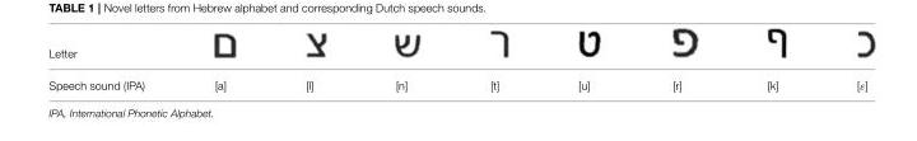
<table><thead><tr><td>Letter</td><td></td><td></td><td></td><td></td><td></td><td></td><td></td><td></td></tr></thead><tbody><tr><td>Speech sound (IPA)</td><td>[a]</td><td>[l]</td><td>[n]</td><td>[t]</td><td>[u]</td><td>[r]</td><td>[k]</td><td>[ε]</td></tr></tbody></table>